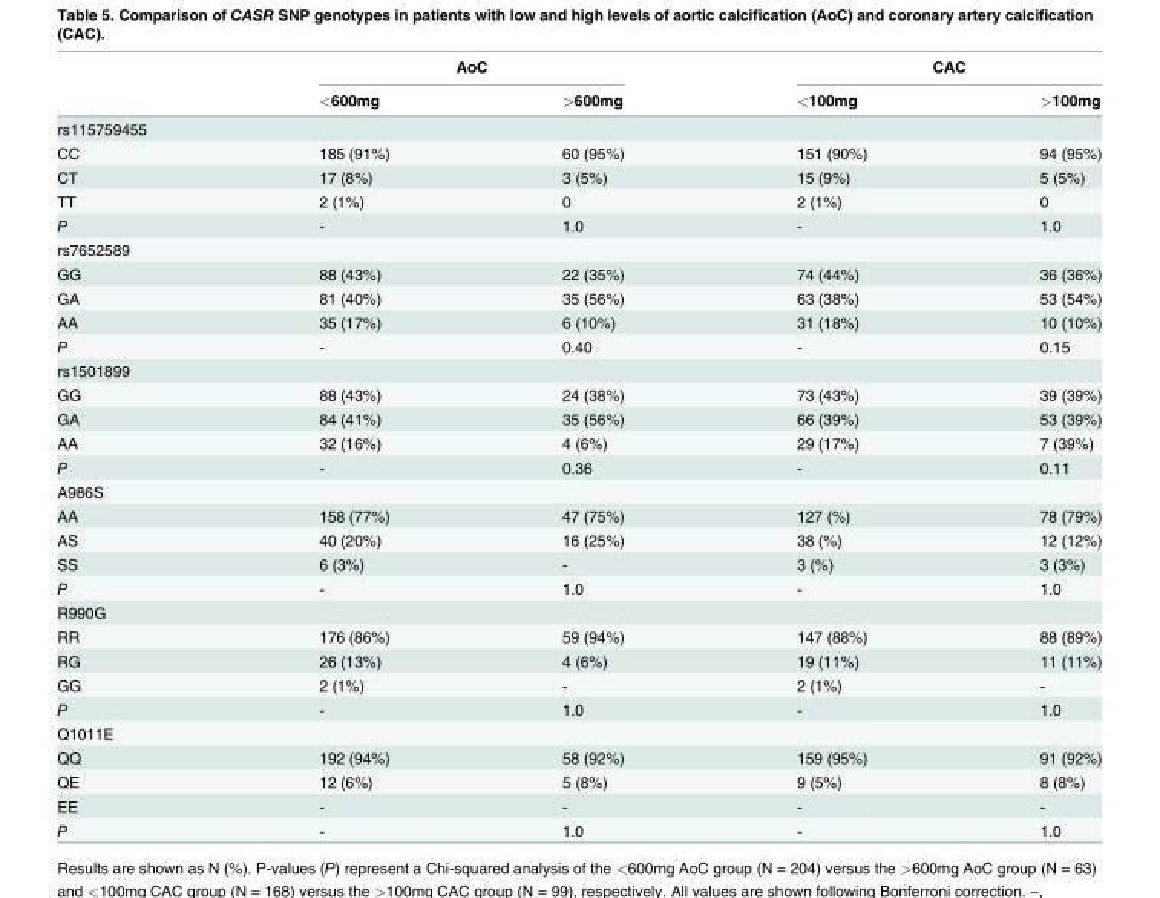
<table><thead><tr><td rowspan="2"></td><td colspan="2">AoC</td><td colspan="2">CAC</td></tr><tr><td>&lt;600mg</td><td>&gt;600mg</td><td>&lt;100mg</td><td>&gt;100mg</td></tr></thead><tbody><tr><td colspan="5">rs115759455</td></tr><tr><td>CC</td><td>185 (91%)</td><td>60 (95%)</td><td>151 (90%)</td><td>94 (95%)</td></tr><tr><td>CT</td><td>17 (8%)</td><td>3 (5%)</td><td>15 (9%)</td><td>5 (5%)</td></tr><tr><td>TT</td><td>2 (1%)</td><td>0</td><td>2 (1%)</td><td>0</td></tr><tr><td>P</td><td>-</td><td>1.0</td><td>-</td><td>1.0</td></tr><tr><td colspan="5">rs7652589</td></tr><tr><td>GG</td><td>88 (43%)</td><td>22 (35%)</td><td>74 (44%)</td><td>36 (36%)</td></tr><tr><td>GA</td><td>81 (40%)</td><td>35 (56%)</td><td>63 (38%)</td><td>53 (54%)</td></tr><tr><td>AA</td><td>35 (17%)</td><td>6 (10%)</td><td>31 (18%)</td><td>10 (10%)</td></tr><tr><td>P</td><td>-</td><td>0.40</td><td>-</td><td>0.15</td></tr><tr><td colspan="5">rs1501899</td></tr><tr><td>GG</td><td>88 (43%)</td><td>24 (38%)</td><td>73 (43%)</td><td>39 (39%)</td></tr><tr><td>GA</td><td>84 (41%)</td><td>35 (56%)</td><td>66 (39%)</td><td>53 (39%)</td></tr><tr><td>AA</td><td>32 (16%)</td><td>4 (6%)</td><td>29 (17%)</td><td>7 (39%)</td></tr><tr><td>P</td><td>-</td><td>0.36</td><td>-</td><td>0.11</td></tr><tr><td colspan="5">A986S</td></tr><tr><td>AA</td><td>158 (77%)</td><td>47 (75%)</td><td>127 (%)</td><td>78 (79%)</td></tr><tr><td>AS</td><td>40 (20%)</td><td>16 (25%)</td><td>38 (%)</td><td>12 (12%)</td></tr><tr><td>SS</td><td>6 (3%)</td><td>-</td><td>3 (%)</td><td>3 (3%)</td></tr><tr><td>P</td><td>-</td><td>1.0</td><td>-</td><td>1.0</td></tr><tr><td colspan="5">R990G</td></tr><tr><td>RR</td><td>176 (86%)</td><td>59 (94%)</td><td>147 (88%)</td><td>88 (89%)</td></tr><tr><td>RG</td><td>26 (13%)</td><td>4 (6%)</td><td>19 (11%)</td><td>11 (11%)</td></tr><tr><td>GG</td><td>2 (1%)</td><td>-</td><td>2 (1%)</td><td>-</td></tr><tr><td>P</td><td>-</td><td>1.0</td><td>-</td><td>1.0</td></tr><tr><td colspan="5">Q1011E</td></tr><tr><td>QQ</td><td>192 (94%)</td><td>58 (92%)</td><td>159 (95%)</td><td>91 (92%)</td></tr><tr><td>QE</td><td>12 (6%)</td><td>5 (8%)</td><td>9 (5%)</td><td>8 (8%)</td></tr><tr><td>EE</td><td>-</td><td>-</td><td>-</td><td>-</td></tr><tr><td>P</td><td>-</td><td>1.0</td><td>-</td><td>1.0</td></tr></tbody></table>